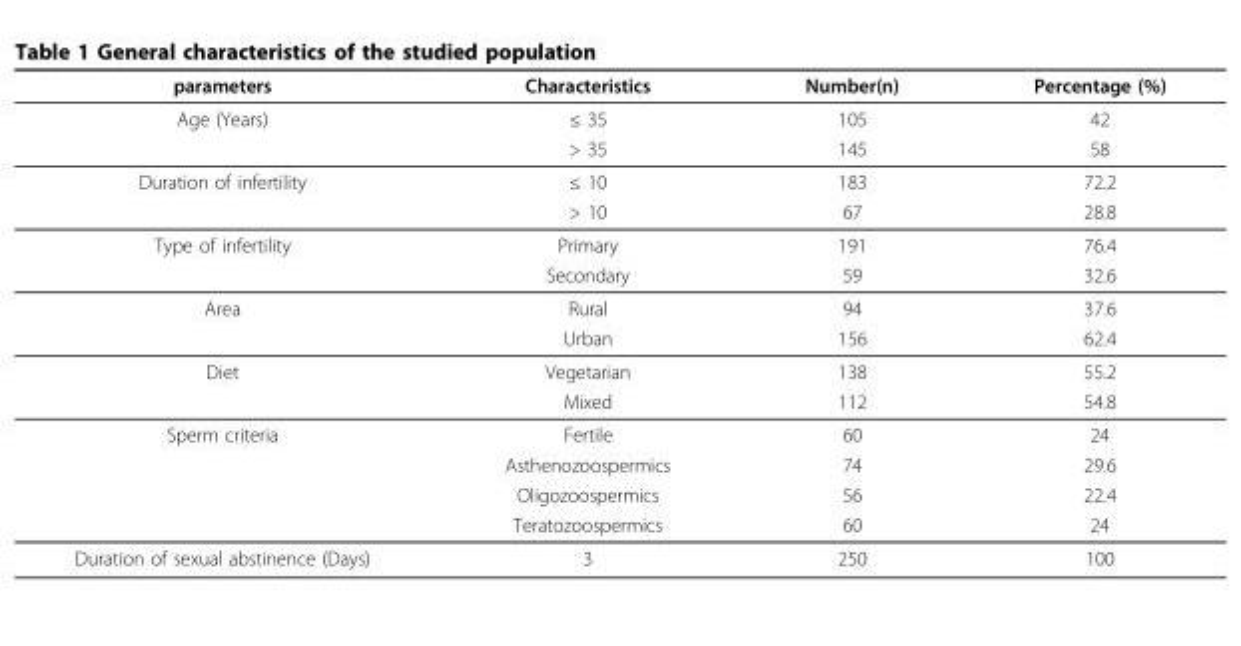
<table><thead><tr><td>parameters</td><td>Characteristics</td><td>Number(n)</td><td>Percentage (%)</td></tr></thead><tbody><tr><td rowspan="2">Age (Years)</td><td>≤ 35</td><td>105</td><td>42</td></tr><tr><td>&gt; 35</td><td>145</td><td>58</td></tr><tr><td rowspan="2">Duration of infertility</td><td>≤ 10</td><td>183</td><td>72.2</td></tr><tr><td>&gt; 10</td><td>67</td><td>28.8</td></tr><tr><td rowspan="2">Type of infertility</td><td>Primary</td><td>191</td><td>76.4</td></tr><tr><td>Secondary</td><td>59</td><td>32.6</td></tr><tr><td rowspan="2">Area</td><td>Rural</td><td>94</td><td>37.6</td></tr><tr><td>Urban</td><td>156</td><td>62.4</td></tr><tr><td rowspan="2">Diet</td><td>Vegetarian</td><td>138</td><td>55.2</td></tr><tr><td>Mixed</td><td>112</td><td>54.8</td></tr><tr><td rowspan="4">Sperm criteria</td><td>Fertile</td><td>60</td><td>24</td></tr><tr><td>Asthenozoospermics</td><td>74</td><td>29.6</td></tr><tr><td>Oligozoospermics</td><td>56</td><td>22.4</td></tr><tr><td>Teratozoospermics</td><td>60</td><td>24</td></tr><tr><td>Duration of sexual abstinence (Days)</td><td>3</td><td>250</td><td>100</td></tr></tbody></table>